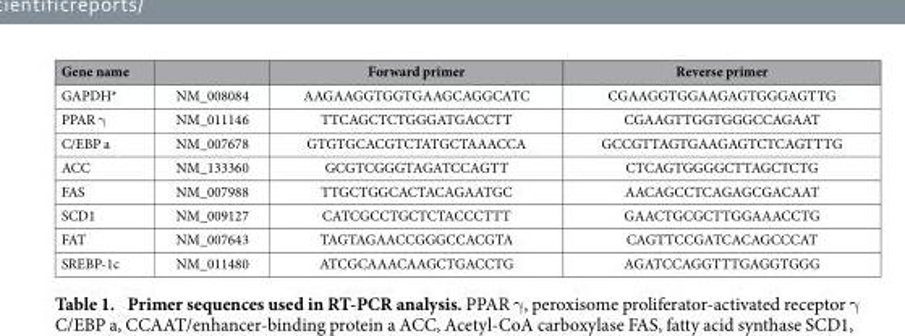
<table><thead><tr><td>Gene name</td><td></td><td>Forward primer</td><td>Reverse primer</td></tr></thead><tbody><tr><td>GAPDH*</td><td>NM_008084</td><td>AAGAAGGTGGTGAAGCAGGCATC</td><td>CGAAGGTGGAAGAGTGGGAGTTG</td></tr><tr><td>PPAR γ</td><td>NM_011146</td><td>TTCAGCTCTGGGATGACCTT</td><td>CGAAGTTGGTGGGCCAGAAT</td></tr><tr><td>C/EBP a</td><td>NM_007678</td><td>GTGTGCACGTCTATGCTAAACCA</td><td>GCCGTTAGTGAAGAGTCTCAGTTTG</td></tr><tr><td>ACC</td><td>NM_133360</td><td>GCGTCGGGTAGATCCAGTT</td><td>CTCAGTGGGGCTTAGCTCTG</td></tr><tr><td>FAS</td><td>NM_007988</td><td>TTGCTGGCACTACAGAATGC</td><td>AACAGCCTCAGAGCGACAAT</td></tr><tr><td>SCD1</td><td>NM_009127</td><td>CATCGCCTGCTCTACCCTTT</td><td>GAACTGCGCTTGGAAACCTG</td></tr><tr><td>FAT</td><td>NM_007643</td><td>TAGTAGAACCGGGCCACGTA</td><td>CAGTTCCGATCACAGCCCAT</td></tr><tr><td>SREBP-1c</td><td>NM_011480</td><td>ATCGCAAACAAGCTGACCTG</td><td>AGATCCAGGTTTGAGGTGGG</td></tr></tbody></table>